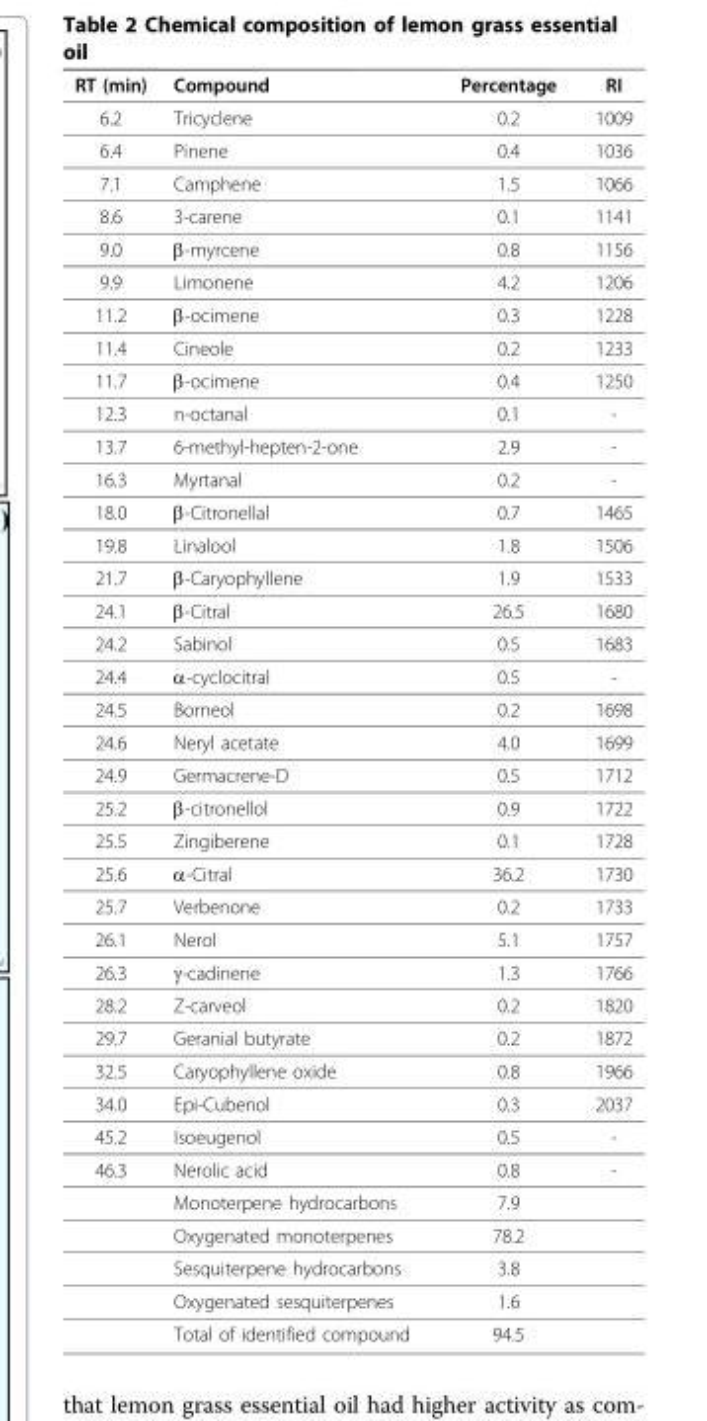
<table><thead><tr><td>RT (min)</td><td>Compound</td><td>Percentage</td><td>RI</td></tr></thead><tbody><tr><td>6.2</td><td>Tricyclene</td><td>0.2</td><td>1009</td></tr><tr><td>6.4</td><td>Pinene</td><td>0.4</td><td>1036</td></tr><tr><td>7.1</td><td>Camphene</td><td>1.5</td><td>1066</td></tr><tr><td>8.6</td><td>3-carene</td><td>0.1</td><td>1141</td></tr><tr><td>9.0</td><td>β-myrcene</td><td>0.8</td><td>1156</td></tr><tr><td>9.9</td><td>Limonene</td><td>4.2</td><td>1206</td></tr><tr><td>11.2</td><td>β-ocimene</td><td>0.3</td><td>1228</td></tr><tr><td>11.4</td><td>Cineole</td><td>0.2</td><td>1233</td></tr><tr><td>11.7</td><td>β-ocimene</td><td>0.4</td><td>1250</td></tr><tr><td>12.3</td><td>n-octanal</td><td>0.1</td><td>-</td></tr><tr><td>13.7</td><td>6-methyl-hepten-2-one</td><td>2.9</td><td>-</td></tr><tr><td>16.3</td><td>Myrtanal</td><td>0.2</td><td>-</td></tr><tr><td>18.0</td><td>β-Citronellal</td><td>0.7</td><td>1465</td></tr><tr><td>19.8</td><td>Linalool</td><td>1.8</td><td>1506</td></tr><tr><td>21.7</td><td>β-Caryophyllene</td><td>1.9</td><td>1533</td></tr><tr><td>24.1</td><td>β-Citral</td><td>26.5</td><td>1680</td></tr><tr><td>24.2</td><td>Sabinol</td><td>0.5</td><td>1683</td></tr><tr><td>24.4</td><td>α-cyclocitral</td><td>0.5</td><td>-</td></tr><tr><td>24.5</td><td>Borneol</td><td>0.2</td><td>1698</td></tr><tr><td>24.6</td><td>Neryl acetate</td><td>4.0</td><td>1699</td></tr><tr><td>24.9</td><td>Germacrene-D</td><td>0.5</td><td>1712</td></tr><tr><td>25.2</td><td>β-citronellol</td><td>0.9</td><td>1722</td></tr><tr><td>25.5</td><td>Zingiberene</td><td>0.1</td><td>1728</td></tr><tr><td>25.6</td><td>α-Citral</td><td>36.2</td><td>1730</td></tr><tr><td>25.7</td><td>Verbenone</td><td>0.2</td><td>1733</td></tr><tr><td>26.1</td><td>Nerol</td><td>5.1</td><td>1757</td></tr><tr><td>26.3</td><td>γ-cadinene</td><td>1.3</td><td>1766</td></tr><tr><td>28.2</td><td>Z-carveol</td><td>0.2</td><td>1820</td></tr><tr><td>29.7</td><td>Geranial butyrate</td><td>0.2</td><td>1872</td></tr><tr><td>32.5</td><td>Caryophyllene oxide</td><td>0.8</td><td>1966</td></tr><tr><td>34.0</td><td>Epi-Cubenol</td><td>0.3</td><td>2037</td></tr><tr><td>45.2</td><td>Isoeugenol</td><td>0.5</td><td>-</td></tr><tr><td rowspan="6">46.3</td><td>Nerolic acid</td><td>0.8</td><td>-</td></tr><tr><td>Monoterpene hydrocarbons</td><td>7.9</td><td></td></tr><tr><td>Oxygenated monoterpenes</td><td>78.2</td><td></td></tr><tr><td>Sesquiterpene hydrocarbons</td><td>3.8</td><td></td></tr><tr><td>Oxygenated sesquiterpenes</td><td>1.6</td><td></td></tr><tr><td>Total of identified compound</td><td>94.5</td><td></td></tr></tbody></table>